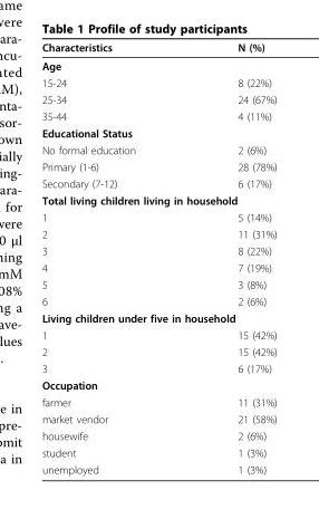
<table><thead><tr><td>Characteristics</td><td>N (%)</td></tr></thead><tbody><tr><td colspan="2">Age</td></tr><tr><td>15-24</td><td>8 (22%)</td></tr><tr><td>25-34</td><td>24 (67%)</td></tr><tr><td>35-44</td><td>4 (11%)</td></tr><tr><td colspan="2">Educational Status</td></tr><tr><td>No formal education</td><td>2 (6%)</td></tr><tr><td>Primary (1-6)</td><td>28 (78%)</td></tr><tr><td>Secondary (7-12)</td><td>6 (17%)</td></tr><tr><td colspan="2">Total living children living in household</td></tr><tr><td>1</td><td>5 (14%)</td></tr><tr><td>2</td><td>11 (31%)</td></tr><tr><td>3</td><td>8 (22%)</td></tr><tr><td>4</td><td>7 (19%)</td></tr><tr><td>5</td><td>3 (8%)</td></tr><tr><td>6</td><td>2 (6%)</td></tr><tr><td colspan="2">Living children under five in household</td></tr><tr><td>1</td><td>15 (42%)</td></tr><tr><td>2</td><td>15 (42%)</td></tr><tr><td>3</td><td>6 (17%)</td></tr><tr><td colspan="2">Occupation</td></tr><tr><td>farmer</td><td>11 (31%)</td></tr><tr><td>market vendor</td><td>21 (58%)</td></tr><tr><td>housewife</td><td>2 (6%)</td></tr><tr><td>student</td><td>1 (3%)</td></tr><tr><td>unemployed</td><td>1 (3%)</td></tr></tbody></table>